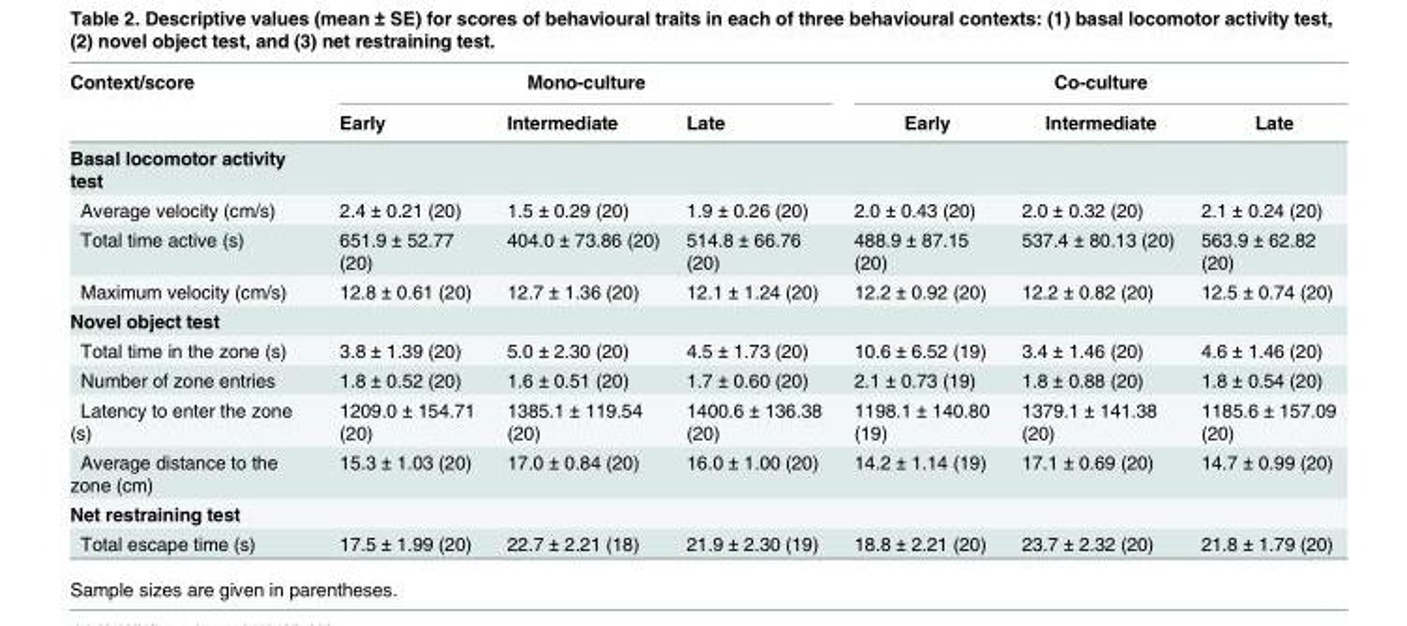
<table><thead><tr><td rowspan="2">Context/score</td><td colspan="3">Mono-culture</td><td colspan="3">Co-culture</td></tr><tr><td>Early</td><td>Intermediate</td><td>Late</td><td>Early</td><td>Intermediate</td><td>Late</td></tr></thead><tbody><tr><td colspan="7">Basal locomotor activity test</td></tr><tr><td>Average velocity (cm/s)</td><td>2.4 ± 0.21 (20)</td><td>1.5 ± 0.29 (20)</td><td>1.9 ± 0.26 (20)</td><td>2.0 ± 0.43 (20)</td><td>2.0 ± 0.32 (20)</td><td>2.1 ± 0.24 (20)</td></tr><tr><td>Total time active (s)</td><td>651.9 ± 52.77 (20)</td><td>404.0 ± 73.86 (20)</td><td>514.8 ± 66.76 (20)</td><td>488.9 ± 87.15 (20)</td><td>537.4 ± 80.13 (20)</td><td>563.9 ± 62.82 (20)</td></tr><tr><td>Maximum velocity (cm/s)</td><td>12.8 ± 0.61 (20)</td><td>12.7 ± 1.36 (20)</td><td>12.1 ± 1.24 (20)</td><td>12.2 ± 0.92 (20)</td><td>12.2 ± 0.82 (20)</td><td>12.5 ± 0.74 (20)</td></tr><tr><td colspan="7">Novel object test</td></tr><tr><td>Total time in the zone (s)</td><td>3.8 ± 1.39 (20)</td><td>5.0 ± 2.30 (20)</td><td>4.5 ± 1.73 (20)</td><td>10.6 ± 6.52 (19)</td><td>3.4 ± 1.46 (20)</td><td>4.6 ± 1.46 (20)</td></tr><tr><td>Number of zone entries</td><td>1.8 ± 0.52 (20)</td><td>1.6 ± 0.51 (20)</td><td>1.7 ± 0.60 (20)</td><td>2.1 ± 0.73 (19)</td><td>1.8 ± 0.88 (20)</td><td>1.8 ± 0.54 (20)</td></tr><tr><td>Latency to enter the zone (s)</td><td>1209.0 ± 154.71 (20)</td><td>1385.1 ± 119.54 (20)</td><td>1400.6 ± 136.38 (20)</td><td>1198.1 ± 140.80 (19)</td><td>1379.1 ± 141.38 (20)</td><td>1185.6 ± 157.09 (20)</td></tr><tr><td>Average distance to the zone (cm)</td><td>15.3 ± 1.03 (20)</td><td>17.0 ± 0.84 (20)</td><td>16.0 ± 1.00 (20)</td><td>14.2 ± 1.14 (19)</td><td>17.1 ± 0.69 (20)</td><td>14.7 ± 0.99 (20)</td></tr><tr><td colspan="7">Net restraining test</td></tr><tr><td>Total escape time (s)</td><td>17.5 ± 1.99 (20)</td><td>22.7 ± 2.21 (18)</td><td>21.9 ± 2.30 (19)</td><td>18.8 ± 2.21 (20)</td><td>23.7 ± 2.32 (20)</td><td>21.8 ± 1.79 (20)</td></tr></tbody></table>